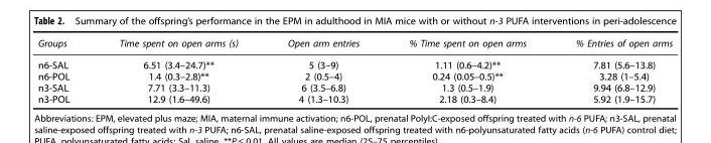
<table><thead><tr><td>Groups</td><td>Time spent on open arms (s)</td><td>Open arm entries</td><td>% Time spent on open arms</td><td>% Entries of open arms</td></tr></thead><tbody><tr><td>n6-SAL</td><td>6.51 (3.4–24.7)**</td><td>5 (3–9)</td><td>1.11 (0.6–4.2)**</td><td>7.81 (5.6–13.8)</td></tr><tr><td>n6-POL</td><td>1.4 (0.3–2.8)**</td><td>2 (0.5–4)</td><td>0.24 (0.05–0.5)**</td><td>3.28 (1–5.4)</td></tr><tr><td>n3-SAL</td><td>7.71 (3.3–11.3)</td><td>6 (3.5–6.8)</td><td>1.3 (0.5–1.9)</td><td>9.94 (6.8–12.9)</td></tr><tr><td>n3-POL</td><td>12.9 (1.6–49.6)</td><td>4 (1.3–10.3)</td><td>2.18 (0.3–8.4)</td><td>5.92 (1.9–15.7)</td></tr></tbody></table>